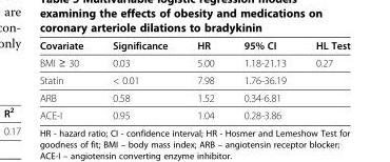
<table><thead><tr><td>Covariate</td><td>Significance</td><td>HR</td><td>95% CI</td><td>HL Test</td></tr></thead><tbody><tr><td>BMI ≥ 30</td><td>0.03</td><td>5.00</td><td>1.18-21.13</td><td>0.27</td></tr><tr><td>Statin</td><td>&lt; 0.01</td><td>7.98</td><td>1.76-36.19</td><td></td></tr><tr><td>ARB</td><td>0.58</td><td>1.52</td><td>0.34-6.81</td><td></td></tr><tr><td>ACE-I</td><td>0.95</td><td>1.04</td><td>0.28-3.86</td><td></td></tr></tbody></table>